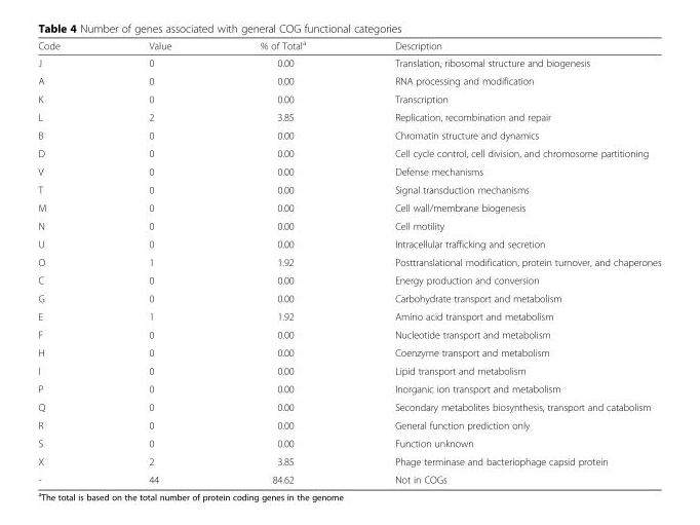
<table><thead><tr><td>Code</td><td>Value</td><td>% of Total<sup>a</sup></td><td>Description</td></tr></thead><tbody><tr><td>J</td><td>0</td><td>0.00</td><td>Translation, ribosomal structure and biogenesis</td></tr><tr><td>A</td><td>0</td><td>0.00</td><td>RNA processing and modification</td></tr><tr><td>K</td><td>0</td><td>0.00</td><td>Transcription</td></tr><tr><td>L</td><td>2</td><td>3.85</td><td>Replication, recombination and repair</td></tr><tr><td>B</td><td>0</td><td>0.00</td><td>Chromatin structure and dynamics</td></tr><tr><td>D</td><td>0</td><td>0.00</td><td>Cell cycle control, cell division, and chromosome partitioning</td></tr><tr><td>V</td><td>0</td><td>0.00</td><td>Defense mechanisms</td></tr><tr><td>T</td><td>0</td><td>0.00</td><td>Signal transduction mechanisms</td></tr><tr><td>M</td><td>0</td><td>0.00</td><td>Cell wall/membrane biogenesis</td></tr><tr><td>N</td><td>0</td><td>0.00</td><td>Cell motility</td></tr><tr><td>U</td><td>0</td><td>0.00</td><td>Intracellular trafficking and secretion</td></tr><tr><td>O</td><td>1</td><td>1.92</td><td>Posttranslational modification, protein turnover, and chaperones</td></tr><tr><td>C</td><td>0</td><td>0.00</td><td>Energy production and conversion</td></tr><tr><td>G</td><td>0</td><td>0.00</td><td>Carbohydrate transport and metabolism</td></tr><tr><td>E</td><td>1</td><td>1.92</td><td>Amino acid transport and metabolism</td></tr><tr><td>F</td><td>0</td><td>0.00</td><td>Nucleotide transport and metabolism</td></tr><tr><td>H</td><td>0</td><td>0.00</td><td>Coenzyme transport and metabolism</td></tr><tr><td>I</td><td>0</td><td>0.00</td><td>Lipid transport and metabolism</td></tr><tr><td>P</td><td>0</td><td>0.00</td><td>Inorganic ion transport and metabolism</td></tr><tr><td>Q</td><td>0</td><td>0.00</td><td>Secondary metabolites biosynthesis, transport and catabolism</td></tr><tr><td>R</td><td>0</td><td>0.00</td><td>General function prediction only</td></tr><tr><td>S</td><td>0</td><td>0.00</td><td>Function unknown</td></tr><tr><td>X</td><td>2</td><td>3.85</td><td>Phage terminase and bacteriophage capsid protein</td></tr><tr><td>-</td><td>44</td><td>84.62</td><td>Not in COGs</td></tr></tbody></table>